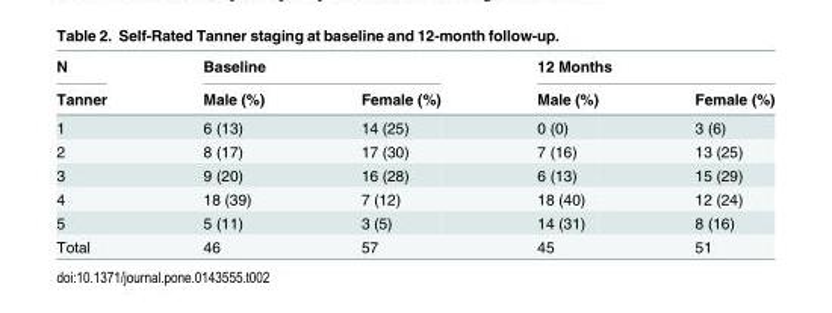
<table><thead><tr><td rowspan="2">N Tanner</td><td colspan="2">Baseline</td><td colspan="2">12 Months</td></tr><tr><td>Male (%)</td><td>Female (%)</td><td>Male (%)</td><td>Female (%)</td></tr></thead><tbody><tr><td>1</td><td>6 (13)</td><td>14 (25)</td><td>0 (0)</td><td>3 (6)</td></tr><tr><td>2</td><td>8 (17)</td><td>17 (30)</td><td>7 (16)</td><td>13 (25)</td></tr><tr><td>3</td><td>9 (20)</td><td>16 (28)</td><td>6 (13)</td><td>15 (29)</td></tr><tr><td>4</td><td>18 (39)</td><td>7 (12)</td><td>18 (40)</td><td>12 (24)</td></tr><tr><td>5</td><td>5 (11)</td><td>3 (5)</td><td>14 (31)</td><td>8 (16)</td></tr><tr><td>Total</td><td>46</td><td>57</td><td>45</td><td>51</td></tr></tbody></table>